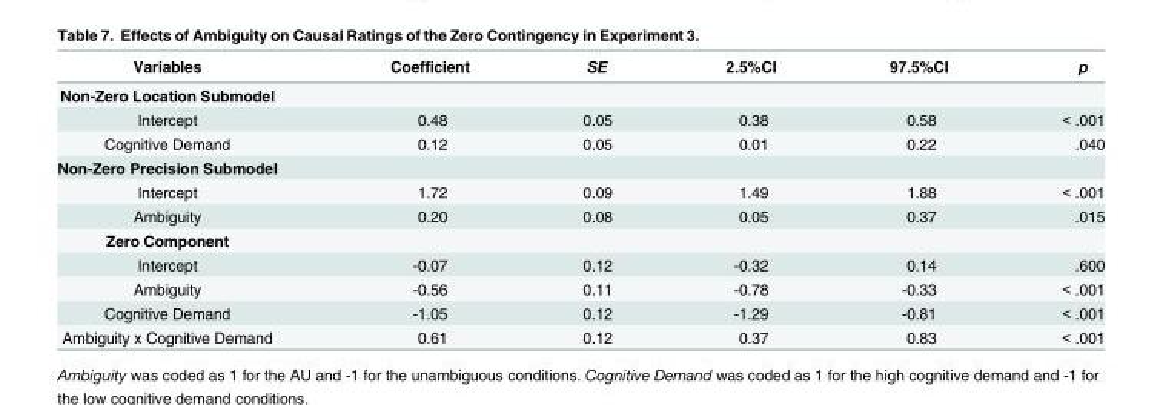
<table><thead><tr><td>Variables</td><td>Coefficient</td><td>SE</td><td>2.5%CI</td><td>97.5%CI</td><td>p</td></tr></thead><tbody><tr><td colspan="6">Non-Zero Location Submodel</td></tr><tr><td>Intercept</td><td>0.48</td><td>0.05</td><td>0.38</td><td>0.58</td><td>&lt; .001</td></tr><tr><td>Cognitive Demand</td><td>0.12</td><td>0.05</td><td>0.01</td><td>0.22</td><td>.040</td></tr><tr><td colspan="6">Non-Zero Precision Submodel</td></tr><tr><td>Intercept</td><td>1.72</td><td>0.09</td><td>1.49</td><td>1.88</td><td>&lt; .001</td></tr><tr><td>Ambiguity</td><td>0.20</td><td>0.08</td><td>0.05</td><td>0.37</td><td>.015</td></tr><tr><td colspan="6">Zero Component</td></tr><tr><td>Intercept</td><td>-0.07</td><td>0.12</td><td>-0.32</td><td>0.14</td><td>.600</td></tr><tr><td>Ambiguity</td><td>-0.56</td><td>0.11</td><td>-0.78</td><td>-0.33</td><td>&lt; .001</td></tr><tr><td>Cognitive Demand</td><td>-1.05</td><td>0.12</td><td>-1.29</td><td>-0.81</td><td>&lt; .001</td></tr><tr><td>Ambiguity x Cognitive Demand</td><td>0.61</td><td>0.12</td><td>0.37</td><td>0.83</td><td>&lt; .001</td></tr></tbody></table>